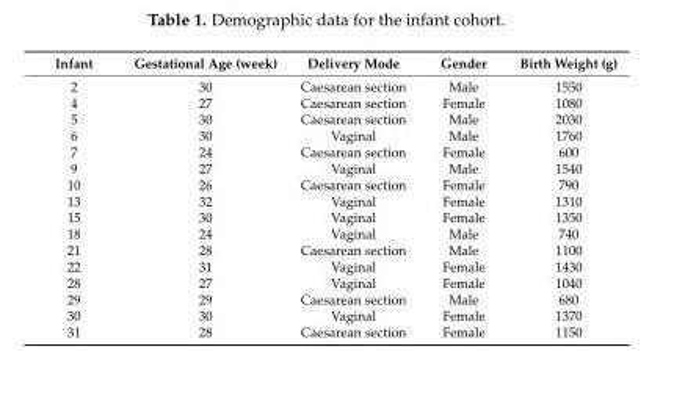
<table><thead><tr><td>Infant</td><td>Gestational Age (week)</td><td>Delivery Mode</td><td>Gender</td><td>Birth Weight (g)</td></tr></thead><tbody><tr><td>2</td><td>30</td><td>Caesarean section</td><td>Male</td><td>1550</td></tr><tr><td>4</td><td>27</td><td>Caesarean section</td><td>Female</td><td>1080</td></tr><tr><td>5</td><td>30</td><td>Caesarean section</td><td>Male</td><td>2030</td></tr><tr><td>6</td><td>30</td><td>Vaginal</td><td>Male</td><td>1760</td></tr><tr><td>7</td><td>24</td><td>Caesarean section</td><td>Female</td><td>600</td></tr><tr><td>9</td><td>27</td><td>Vaginal</td><td>Male</td><td>1540</td></tr><tr><td>10</td><td>26</td><td>Caesarean section</td><td>Female</td><td>790</td></tr><tr><td>13</td><td>32</td><td>Vaginal</td><td>Female</td><td>1310</td></tr><tr><td>15</td><td>30</td><td>Vaginal</td><td>Female</td><td>1350</td></tr><tr><td>18</td><td>24</td><td>Vaginal</td><td>Male</td><td>740</td></tr><tr><td>21</td><td>28</td><td>Caesarean section</td><td>Male</td><td>1100</td></tr><tr><td>22</td><td>31</td><td>Vaginal</td><td>Female</td><td>1430</td></tr><tr><td>28</td><td>27</td><td>Vaginal</td><td>Female</td><td>1040</td></tr><tr><td>29</td><td>29</td><td>Caesarean section</td><td>Male</td><td>680</td></tr><tr><td>30</td><td>30</td><td>Vaginal</td><td>Female</td><td>1370</td></tr><tr><td>31</td><td>28</td><td>Caesarean section</td><td>Female</td><td>1150</td></tr></tbody></table>